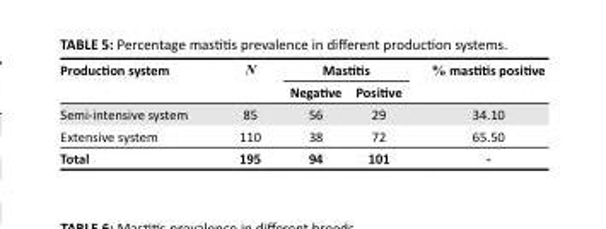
<table><thead><tr><td rowspan="2">Production system</td><td rowspan="2">N</td><td colspan="2">Mastitis</td><td rowspan="2">% mastitis positive</td></tr><tr><td>Negative</td><td>Positive</td></tr></thead><tbody><tr><td>Semi-intensive system</td><td>85</td><td>56</td><td>29</td><td>34.10</td></tr><tr><td>Extensive system</td><td>110</td><td>38</td><td>72</td><td>65.50</td></tr><tr><td>Total</td><td>195</td><td>94</td><td>101</td><td>-</td></tr></tbody></table>